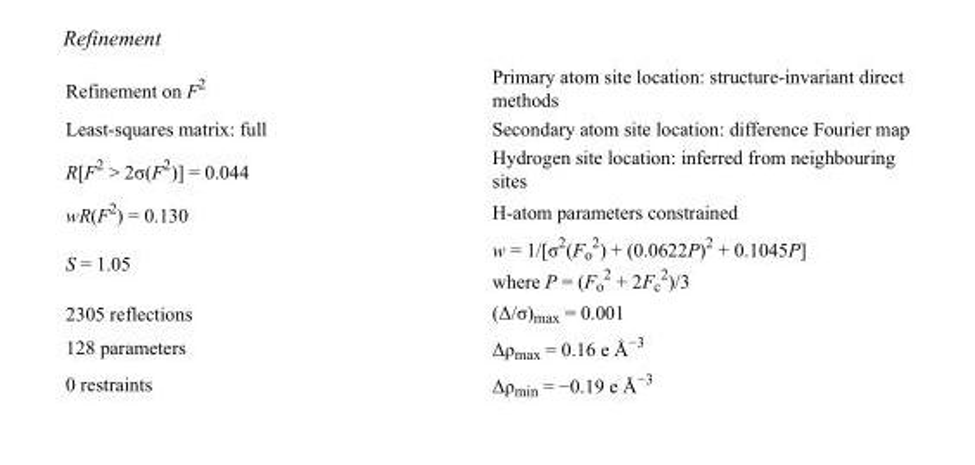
<table><tbody><tr><td>Refinement on F<sup>2</sup></td><td>Primary atom site location: structure-invariant direct methods</td></tr><tr><td>Least-squares matrix: full</td><td>Secondary atom site location: difference Fourier map</td></tr><tr><td>R[F<sup>2</sup> &gt; 2σ(F<sup>2</sup>)] = 0.044</td><td>Hydrogen site location: inferred from neighbouring sites</td></tr><tr><td>wR(F<sup>2</sup>) = 0.130</td><td>H-atom parameters constrained</td></tr><tr><td>S = 1.05</td><td>w = 1/[σ<sup>2</sup>(F<sub>o</sub> <sup>2</sup>) + (0.0622P)<sup>2</sup> + 0.1045P] where P = (F<sub>o</sub> <sup>2</sup> + 2F<sub>c</sub> <sup>2</sup>)/3</td></tr><tr><td>2305 reflections</td><td>(Δ/σ)<sub>max</sub> = 0.001</td></tr><tr><td>128 parameters</td><td>Δρ<sub>max</sub> = 0.16 e Å<sup>−3</sup></td></tr><tr><td>0 restraints</td><td>Δρ<sub>min</sub> = −0.19 e Å<sup>−3</sup></td></tr></tbody></table>